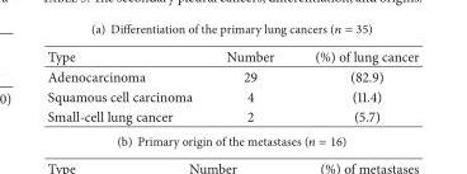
<table><thead><tr><td>Type</td><td>Number</td><td>(%) of lung cancer</td></tr></thead><tbody><tr><td>Adenocarcinoma</td><td>29</td><td>(82.9)</td></tr><tr><td>Squamous cell carcinoma</td><td>4</td><td>(11.4)</td></tr><tr><td>Small-cell lung cancer</td><td>2</td><td>(5.7)</td></tr></tbody></table>